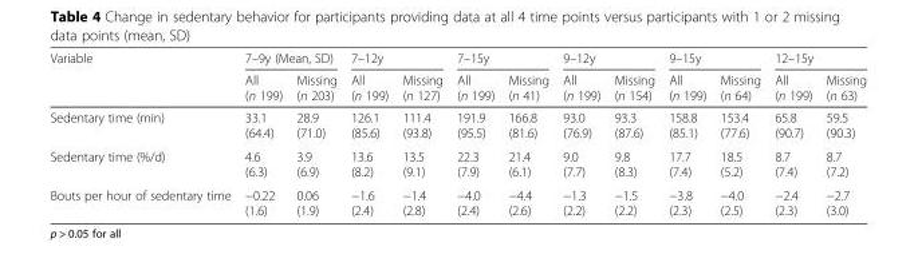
<table><thead><tr><td rowspan="2">Variable</td><td colspan="2">7–9y (Mean, SD)</td><td colspan="2">7–12y</td><td colspan="2">7–15y</td><td colspan="2">9–12y</td><td colspan="2">9–15y</td><td colspan="2">12–15y</td></tr><tr><td>All (n 199)</td><td>Missing (n 203)</td><td>All (n 199)</td><td>Missing (n 127)</td><td>All (n 199)</td><td>Missing (n 41)</td><td>All (n 199)</td><td>Missing (n 154)</td><td>All (n 199)</td><td>Missing (n 64)</td><td>All (n 199)</td><td>Missing (n 63)</td></tr></thead><tbody><tr><td>Sedentary time (min)</td><td>33.1 (64.4)</td><td>28.9 (71.0)</td><td>126.1 (85.6)</td><td>111.4 (93.8)</td><td>191.9 (95.5)</td><td>166.8 (81.6)</td><td>93.0 (76.9)</td><td>93.3 (87.6)</td><td>158.8 (85.1)</td><td>153.4 (77.6)</td><td>65.8 (90.7)</td><td>59.5 (90.3)</td></tr><tr><td>Sedentary time (%/d)</td><td>4.6 (6.3)</td><td>3.9 (6.9)</td><td>13.6 (8.2)</td><td>13.5 (9.1)</td><td>22.3 (7.9)</td><td>21.4 (6.1)</td><td>9.0 (7.7)</td><td>9.8 (8.3)</td><td>17.7 (7.4)</td><td>18.5 (5.2)</td><td>8.7 (7.4)</td><td>8.7 (7.2)</td></tr><tr><td>Bouts per hour of sedentary time</td><td>−0.22 (1.6)</td><td>0.06 (1.9)</td><td>−1.6 (2.4)</td><td>−1.4 (2.8)</td><td>−4.0 (2.4)</td><td>−4.4 (2.6)</td><td>−1.3 (2.2)</td><td>−1.5 (2.2)</td><td>−3.8 (2.3)</td><td>−4.0 (2.5)</td><td>−2.4 (2.3)</td><td>−2.7 (3.0)</td></tr></tbody></table>